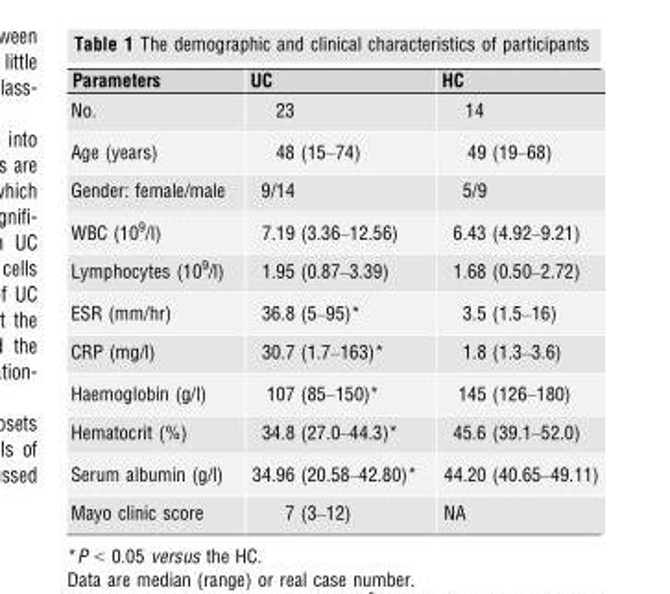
<table><thead><tr><td>Parameters</td><td>UC</td><td>HC</td></tr></thead><tbody><tr><td>No.</td><td>23</td><td>14</td></tr><tr><td>Age (years)</td><td>48 (15–74)</td><td>49 (19–68)</td></tr><tr><td>Gender: female/male</td><td>9/14</td><td>5/9</td></tr><tr><td>WBC (10<sup>9</sup>/l)</td><td>7.19 (3.36–12.56)</td><td>6.43 (4.92–9.21)</td></tr><tr><td>Lymphocytes (10<sup>9</sup>/l)</td><td>1.95 (0.87–3.39)</td><td>1.68 (0.50–2.72)</td></tr><tr><td>ESR (mm/hr)</td><td>36.8 (5–95)*</td><td>3.5 (1.5–16)</td></tr><tr><td>CRP (mg/l)</td><td>30.7 (1.7–163)*</td><td>1.8 (1.3–3.6)</td></tr><tr><td>Haemoglobin (g/l)</td><td>107 (85–150)*</td><td>145 (126–180)</td></tr><tr><td>Hematocrit (%)</td><td>34.8 (27.0–44.3)*</td><td>45.6 (39.1–52.0)</td></tr><tr><td>Serum albumin (g/l)</td><td>34.96 (20.58–42.80)*</td><td>44.20 (40.65–49.11)</td></tr><tr><td>Mayo clinic score</td><td>7 (3–12)</td><td>NA</td></tr></tbody></table>